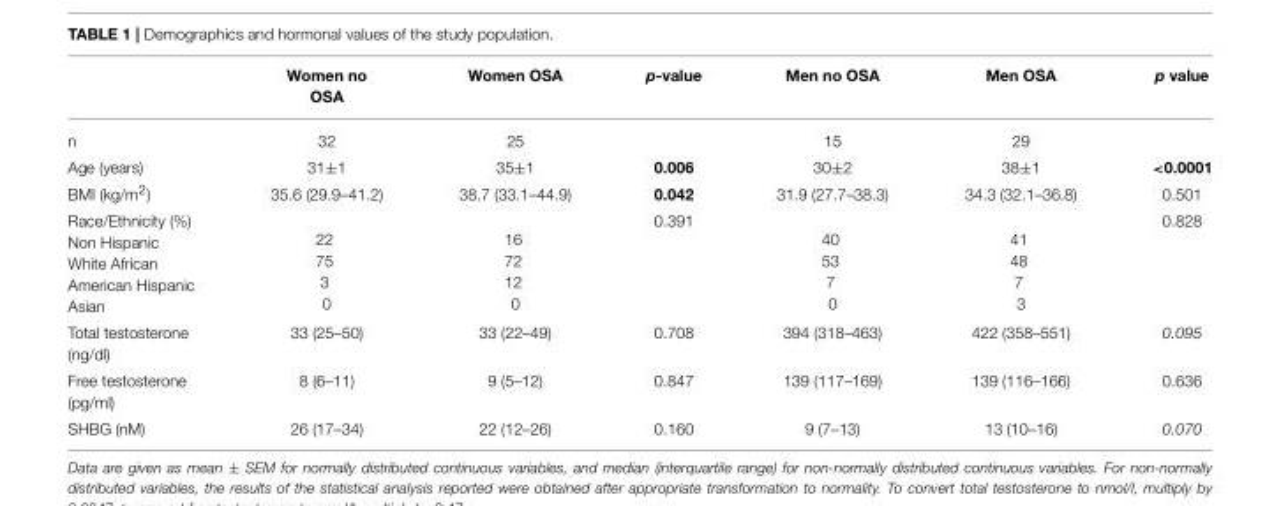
<table><thead><tr><td></td><td>Women no OSA</td><td>Women OSA</td><td>p-value</td><td>Men no OSA</td><td>Men OSA</td><td>p value</td></tr></thead><tbody><tr><td>n</td><td>32</td><td>25</td><td></td><td>15</td><td>29</td><td></td></tr><tr><td>Age (years)</td><td>31±1</td><td>35±1</td><td>0.006</td><td>30±2</td><td>38±1</td><td>&lt;0.0001</td></tr><tr><td>BMI (kg/m<sup>2</sup>)</td><td>35.6 (29.9–41.2)</td><td>38.7 (33.1–44.9)</td><td>0.042</td><td>31.9 (27.7–38.3)</td><td>34.3 (32.1–36.8)</td><td>0.501</td></tr><tr><td>Race/Ethnicity (%) Non Hispanic White African American Hispanic Asian</td><td>22 75 3 0</td><td>16 72 12 0</td><td>0.391</td><td>40 53 7 0</td><td>41 48 7 3</td><td>0.828</td></tr><tr><td>Total testosterone (ng/dl)</td><td>33 (25–50)</td><td>33 (22–49)</td><td>0.708</td><td>394 (318–463)</td><td>422 (358–551)</td><td>0.095</td></tr><tr><td>Free testosterone (pg/ml)</td><td>8 (6–11)</td><td>9 (5–12)</td><td>0.847</td><td>139 (117–169)</td><td>139 (116–166)</td><td>0.636</td></tr><tr><td>SHBG (nM)</td><td>26 (17–34)</td><td>22 (12–26)</td><td>0.160</td><td>9 (7–13)</td><td>13 (10–16)</td><td>0.070</td></tr></tbody></table>